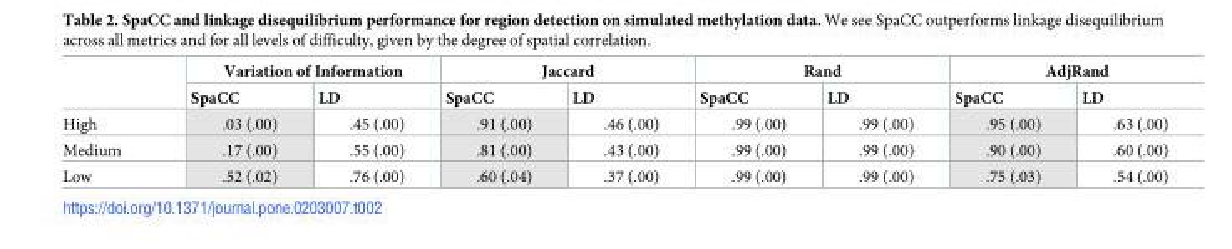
<table><thead><tr><td rowspan="2"></td><td colspan="2">Variation of Information</td><td colspan="2">Jaccard</td><td colspan="2">Rand</td><td colspan="2">AdjRand</td></tr><tr><td>SpaCC</td><td>LD</td><td>SpaCC</td><td>LD</td><td>SpaCC</td><td>LD</td><td>SpaCC</td><td>LD</td></tr></thead><tbody><tr><td>High</td><td>.03 (.00)</td><td>.45 (.00)</td><td>.91 (.00)</td><td>.46 (.00)</td><td>.99 (.00)</td><td>.99 (.00)</td><td>.95 (.00)</td><td>.63 (.00)</td></tr><tr><td>Medium</td><td>.17 (.00)</td><td>.55 (.00)</td><td>.81 (.00)</td><td>.43 (.00)</td><td>.99 (.00)</td><td>.99 (.00)</td><td>.90 (.00)</td><td>.60 (.00)</td></tr><tr><td>Low</td><td>.52 (.02)</td><td>.76 (.00)</td><td>.60 (.04)</td><td>.37 (.00)</td><td>.99 (.00)</td><td>.99 (.00)</td><td>.75 (.03)</td><td>.54 (.00)</td></tr></tbody></table>